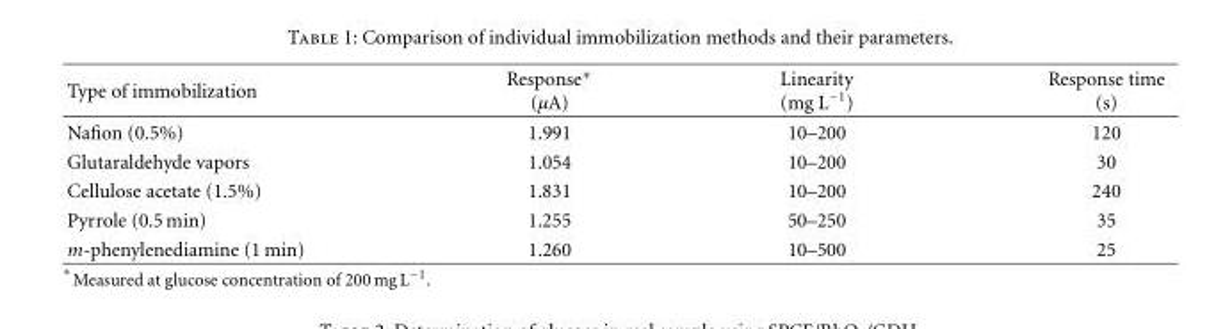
<table><thead><tr><td>Type of immobilization</td><td>Response∗ (μA)</td><td>Linearity (mg L<sup>−1</sup>)</td><td>Response time (s)</td></tr></thead><tbody><tr><td>Nafion (0.5%)</td><td>1.991</td><td>10–200</td><td>120</td></tr><tr><td>Glutaraldehyde vapors</td><td>1.054</td><td>10–200</td><td>30</td></tr><tr><td>Cellulose acetate (1.5%)</td><td>1.831</td><td>10–200</td><td>240</td></tr><tr><td>Pyrrole (0.5 min)</td><td>1.255</td><td>50–250</td><td>35</td></tr><tr><td>m-phenylenediamine (1 min)</td><td>1.260</td><td>10–500</td><td>25</td></tr></tbody></table>